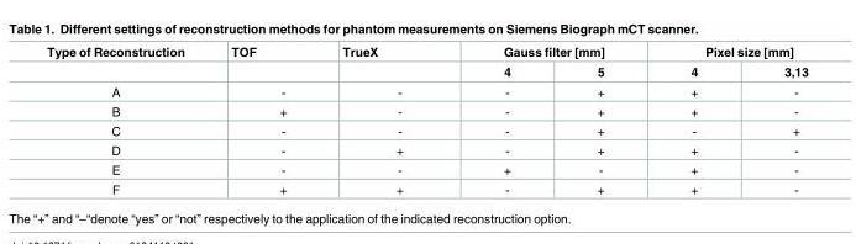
<table><thead><tr><td rowspan="2">Type of Reconstruction</td><td rowspan="2">TOF</td><td rowspan="2">TrueX</td><td colspan="2">Gauss filter [mm]</td><td colspan="2">Pixel size [mm]</td></tr><tr><td>4</td><td>5</td><td>4</td><td>3,13</td></tr></thead><tbody><tr><td>A</td><td>-</td><td>-</td><td>-</td><td>+</td><td>+</td><td>-</td></tr><tr><td>B</td><td>+</td><td>-</td><td>-</td><td>+</td><td>+</td><td>-</td></tr><tr><td>C</td><td>-</td><td>-</td><td>-</td><td>+</td><td>-</td><td>+</td></tr><tr><td>D</td><td>-</td><td>+</td><td>-</td><td>+</td><td>+</td><td>-</td></tr><tr><td>E</td><td>-</td><td>-</td><td>+</td><td>-</td><td>+</td><td>-</td></tr><tr><td>F</td><td>+</td><td>+</td><td>-</td><td>+</td><td>+</td><td>-</td></tr></tbody></table>